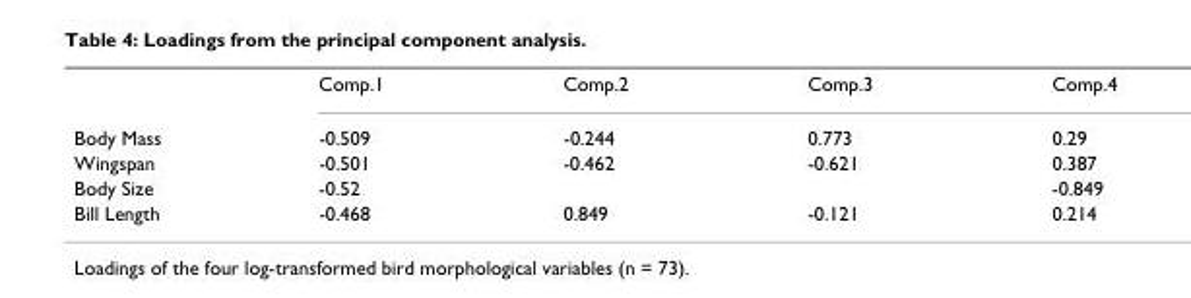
<table><thead><tr><td></td><td>Comp.1</td><td>Comp.2</td><td>Comp.3</td><td>Comp.4</td></tr></thead><tbody><tr><td>Body Mass</td><td>-0.509</td><td>-0.244</td><td>0.773</td><td>0.29</td></tr><tr><td>Wingspan</td><td>-0.501</td><td>-0.462</td><td>-0.621</td><td>0.387</td></tr><tr><td>Body Size</td><td>-0.52</td><td></td><td></td><td>-0.849</td></tr><tr><td>Bill Length</td><td>-0.468</td><td>0.849</td><td>-0.121</td><td>0.214</td></tr></tbody></table>